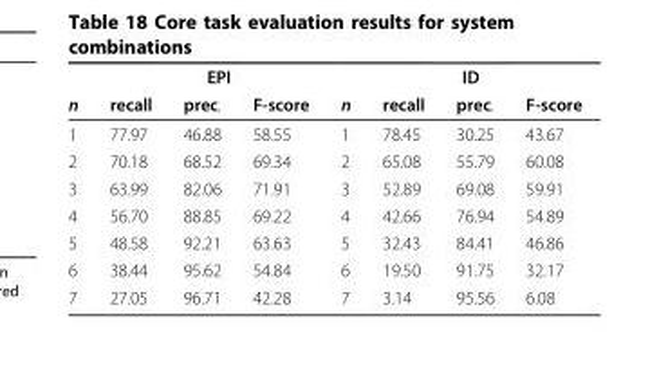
<table><thead><tr><td rowspan="2">n</td><td colspan="3">EPI</td><td colspan="4">ID</td></tr><tr><td>recall</td><td>prec.</td><td>F-score</td><td>n</td><td>recall</td><td>prec.</td><td>F-score</td></tr></thead><tbody><tr><td>1</td><td>77.97</td><td>46.88</td><td>58.55</td><td>1</td><td>78.45</td><td>30.25</td><td>43.67</td></tr><tr><td>2</td><td>70.18</td><td>68.52</td><td>69.34</td><td>2</td><td>65.08</td><td>55.79</td><td>60.08</td></tr><tr><td>3</td><td>63.99</td><td>82.06</td><td>71.91</td><td>3</td><td>52.89</td><td>69.08</td><td>59.91</td></tr><tr><td>4</td><td>56.70</td><td>88.85</td><td>69.22</td><td>4</td><td>42.66</td><td>76.94</td><td>54.89</td></tr><tr><td>5</td><td>48.58</td><td>92.21</td><td>63.63</td><td>5</td><td>32.43</td><td>84.41</td><td>46.86</td></tr><tr><td>6</td><td>38.44</td><td>95.62</td><td>54.84</td><td>6</td><td>19.50</td><td>91.75</td><td>32.17</td></tr><tr><td>7</td><td>27.05</td><td>96.71</td><td>42.28</td><td>7</td><td>3.14</td><td>95.56</td><td>6.08</td></tr></tbody></table>